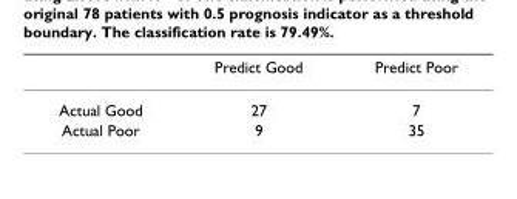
<table><thead><tr><td></td><td>Predict Good</td><td>Predict Poor</td></tr></thead><tbody><tr><td>Actual Good</td><td>27</td><td>7</td></tr><tr><td>Actual Poor</td><td>9</td><td>35</td></tr></tbody></table>